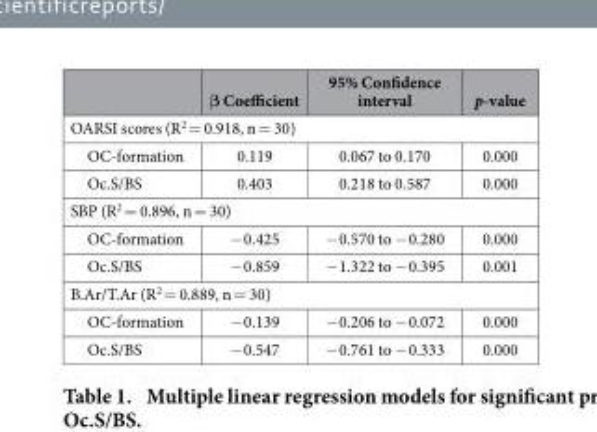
<table><thead><tr><td></td><td>β Coefficient</td><td>95% Confidence interval</td><td>p-value</td></tr></thead><tbody><tr><td colspan="4">OARSI scores (R<sup>2</sup> = 0.918, n = 30)</td></tr><tr><td>OC-formation</td><td>0.119</td><td>0.067 to 0.170</td><td>0.000</td></tr><tr><td>Oc.S/BS</td><td>0.403</td><td>0.218 to 0.587</td><td>0.000</td></tr><tr><td colspan="4">SBP (R<sup>2</sup> = 0.896, n = 30)</td></tr><tr><td>OC-formation</td><td>− 0.425</td><td>− 0.570 to − 0.280</td><td>0.000</td></tr><tr><td>Oc.S/BS</td><td>− 0.859</td><td>− 1.322 to − 0.395</td><td>0.001</td></tr><tr><td colspan="4">B.Ar/T.Ar (R<sup>2</sup> = 0.889, n = 30)</td></tr><tr><td>OC-formation</td><td>− 0.139</td><td>− 0.206 to − 0.072</td><td>0.000</td></tr><tr><td>Oc.S/BS</td><td>− 0.547</td><td>− 0.761 to − 0.333</td><td>0.000</td></tr></tbody></table>